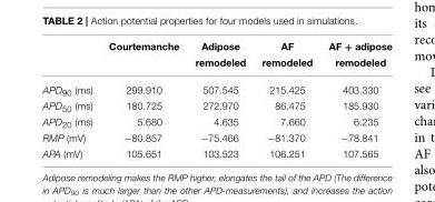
<table><thead><tr><td rowspan="2"></td><td rowspan="2">Courtemanche</td><td rowspan="2">Adipose remodeled</td><td rowspan="2">AF remodeled</td><td rowspan="2">AF + adipose remodeled</td></tr><tr></tr></thead><tbody><tr><td>APD<sub>90</sub> (ms)</td><td>299.910</td><td>507.545</td><td>215.425</td><td>403.330</td></tr><tr><td>APD<sub>50</sub> (ms)</td><td>180.725</td><td>272.970</td><td>86.475</td><td>185.930</td></tr><tr><td>APD<sub>20</sub> (ms)</td><td>5.680</td><td>4.635</td><td>7.660</td><td>6.235</td></tr><tr><td>RMP (mV)</td><td>−80.857</td><td>−75.466</td><td>−81.370</td><td>−78.841</td></tr><tr><td>APA (mV)</td><td>105.651</td><td>103.523</td><td>106.251</td><td>107.565</td></tr></tbody></table>